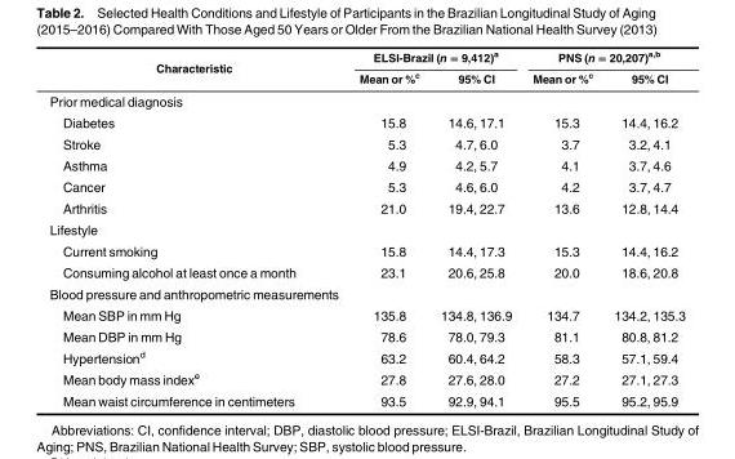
<table><thead><tr><td rowspan="2">Characteristic</td><td colspan="2">ELSI-Brazil (n = 9,412)<sup>a</sup></td><td colspan="2">PNS (n = 20,207)<sup>a,b</sup></td></tr><tr><td>Mean or %<sup>c</sup></td><td>95% CI</td><td>Mean or %<sup>c</sup></td><td>95% CI</td></tr></thead><tbody><tr><td colspan="5">Prior medical diagnosis</td></tr><tr><td>Diabetes</td><td>15.8</td><td>14.6, 17.1</td><td>15.3</td><td>14.4, 16.2</td></tr><tr><td>Stroke</td><td>5.3</td><td>4.7, 6.0</td><td>3.7</td><td>3.2, 4.1</td></tr><tr><td>Asthma</td><td>4.9</td><td>4.2, 5.7</td><td>4.1</td><td>3.7, 4.6</td></tr><tr><td>Cancer</td><td>5.3</td><td>4.6, 6.0</td><td>4.2</td><td>3.7, 4.7</td></tr><tr><td>Arthritis</td><td>21.0</td><td>19.4, 22.7</td><td>13.6</td><td>12.8, 14.4</td></tr><tr><td colspan="5">Lifestyle</td></tr><tr><td>Current smoking</td><td>15.8</td><td>14.4, 17.3</td><td>15.3</td><td>14.4, 16.2</td></tr><tr><td>Consuming alcohol at least once a month</td><td>23.1</td><td>20.6, 25.8</td><td>20.0</td><td>18.6, 20.8</td></tr><tr><td colspan="5">Blood pressure and anthropometric measurements</td></tr><tr><td>Mean SBP in mm Hg</td><td>135.8</td><td>134.8, 136.9</td><td>134.7</td><td>134.2, 135.3</td></tr><tr><td>Mean DBP in mm Hg</td><td>78.6</td><td>78.0, 79.3</td><td>81.1</td><td>80.8, 81.2</td></tr><tr><td>Hypertension<sup>d</sup></td><td>63.2</td><td>60.4, 64.2</td><td>58.3</td><td>57.1, 59.4</td></tr><tr><td>Mean body mass index<sup>e</sup></td><td>27.8</td><td>27.6, 28.0</td><td>27.2</td><td>27.1, 27.3</td></tr><tr><td>Mean waist circumference in centimeters</td><td>93.5</td><td>92.9, 94.1</td><td>95.5</td><td>95.2, 95.9</td></tr></tbody></table>